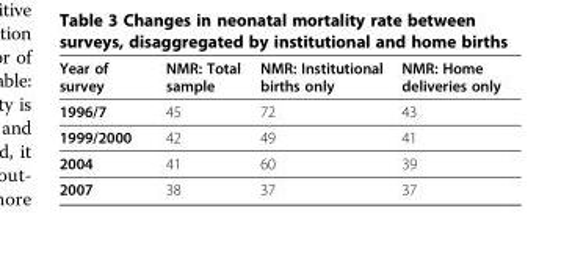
<table><thead><tr><td>Year of survey</td><td>NMR: Total sample</td><td>NMR: Institutional births only</td><td>NMR: Home deliveries only</td></tr></thead><tbody><tr><td>1996/7</td><td>45</td><td>72</td><td>43</td></tr><tr><td>1999/2000</td><td>42</td><td>49</td><td>41</td></tr><tr><td>2004</td><td>41</td><td>60</td><td>39</td></tr><tr><td>2007</td><td>38</td><td>37</td><td>37</td></tr></tbody></table>